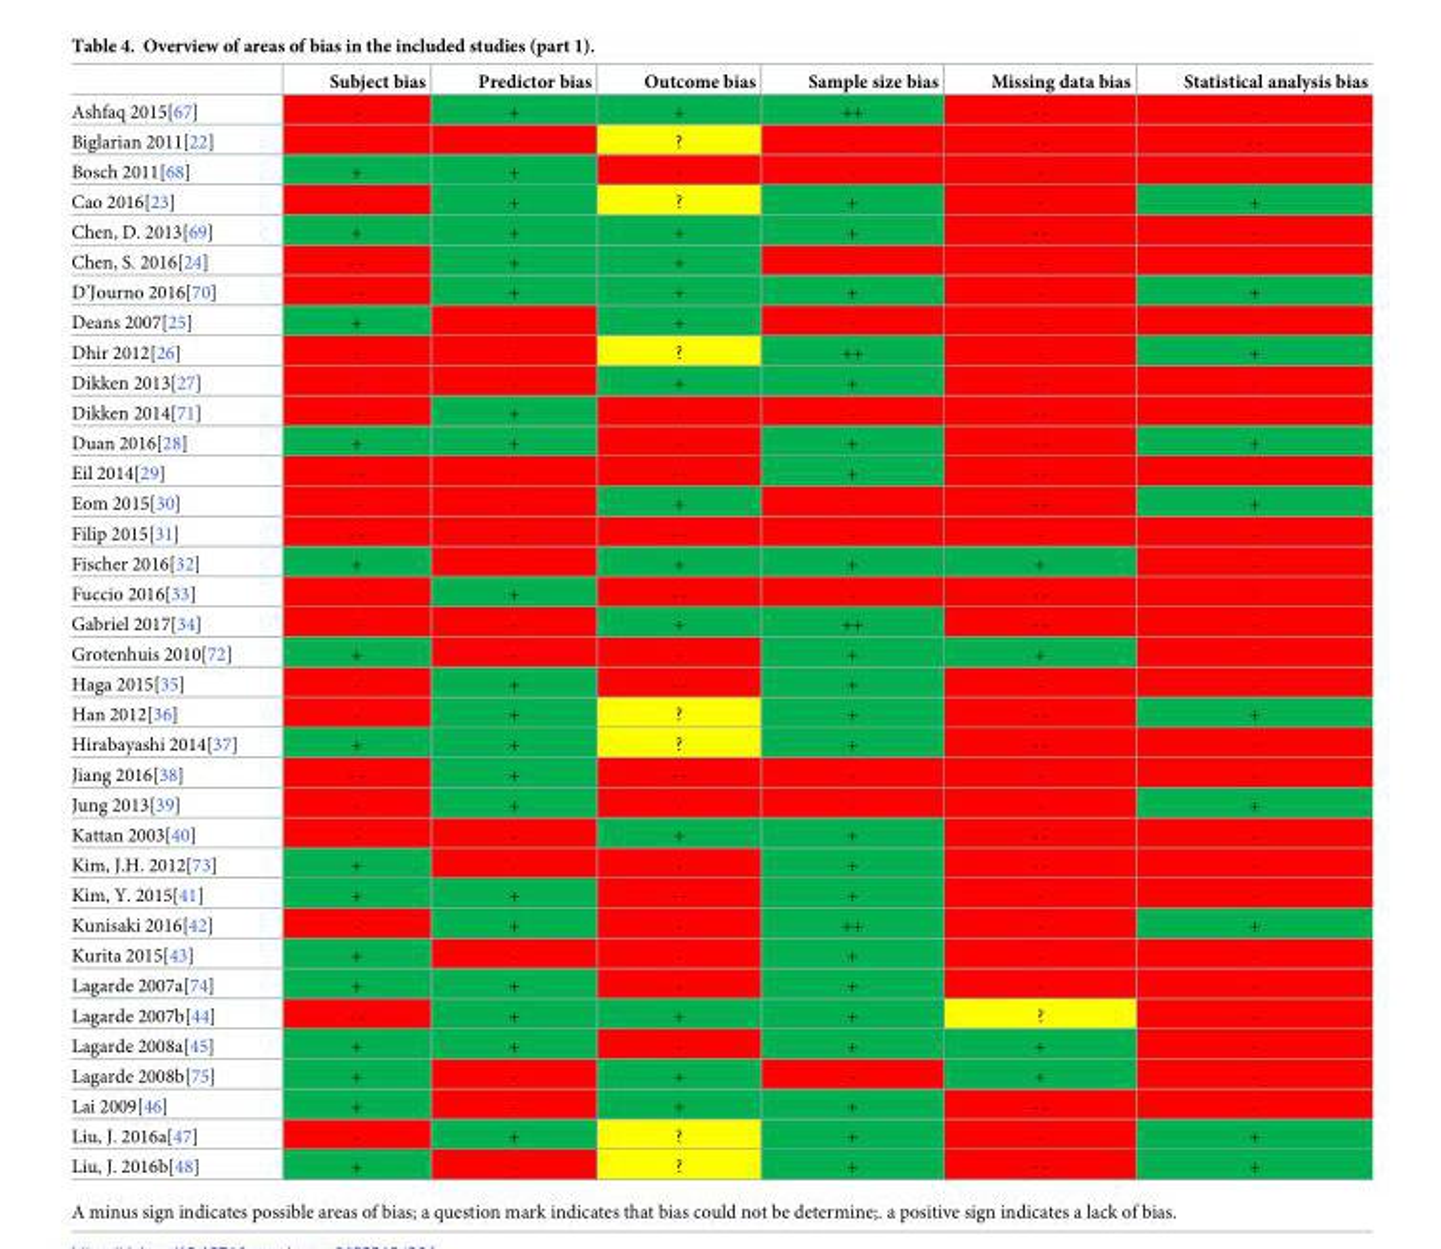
<table><thead><tr><td></td><td>Subject bias</td><td>Predictor bias</td><td>Outcome bias</td><td>Sample size bias</td><td>Missing data bias</td><td>Statistical analysis bias</td></tr></thead><tbody><tr><td>Ashfaq 2015[67]</td><td>-</td><td>+</td><td>+</td><td>++</td><td>--</td><td>-</td></tr><tr><td>Biglarian 2011[22]</td><td>-</td><td>-</td><td>?</td><td>-</td><td>--</td><td>--</td></tr><tr><td>Bosch 2011[68]</td><td>+</td><td>+</td><td>-</td><td>-</td><td>-</td><td>-</td></tr><tr><td>Cao 2016[23]</td><td>-</td><td>+</td><td>?</td><td>+</td><td>-</td><td>+</td></tr><tr><td>Chen, D. 2013[69]</td><td>+</td><td>+</td><td>+</td><td>+</td><td>--</td><td>-</td></tr><tr><td>Chen, S. 2016[24]</td><td>--</td><td>+</td><td>+</td><td>-</td><td>-</td><td>-</td></tr><tr><td>D’Journo 2016[70]</td><td>--</td><td>+</td><td>+</td><td>+</td><td>-</td><td>+</td></tr><tr><td>Deans 2007[25]</td><td>+</td><td>-</td><td>+</td><td>-</td><td>-</td><td>-</td></tr><tr><td>Dhir 2012[26]</td><td>-</td><td>-</td><td>?</td><td>++</td><td>-</td><td>+</td></tr><tr><td>Dikken 2013[27]</td><td>-</td><td>-</td><td>+</td><td>+</td><td>--</td><td>-</td></tr><tr><td>Dikken 2014[71]</td><td>-</td><td>+</td><td>-</td><td>-</td><td>--</td><td>-</td></tr><tr><td>Duan 2016[28]</td><td>+</td><td>+</td><td>-</td><td>+</td><td>--</td><td>+</td></tr><tr><td>Eil 2014[29]</td><td>--</td><td>-</td><td>--</td><td>+</td><td>--</td><td>-</td></tr><tr><td>Eom 2015[30]</td><td>-</td><td>-</td><td>+</td><td>-</td><td>--</td><td>+</td></tr><tr><td>Filip 2015[31]</td><td>--</td><td>-</td><td>--</td><td>-</td><td>-</td><td>-</td></tr><tr><td>Fischer 2016[32]</td><td>+</td><td>-</td><td>+</td><td>+</td><td>+</td><td>-</td></tr><tr><td>Fuccio 2016[33]</td><td>-</td><td>+</td><td>--</td><td>-</td><td>--</td><td>-</td></tr><tr><td>Gabriel 2017[34]</td><td>-</td><td>-</td><td>+</td><td>++</td><td>--</td><td>-</td></tr><tr><td>Grotenhuis 2010[72]</td><td>+</td><td>-</td><td>-</td><td>+</td><td>+</td><td>-</td></tr><tr><td>Haga 2015[35]</td><td>-</td><td>+</td><td>--</td><td>+</td><td>-</td><td>-</td></tr><tr><td>Han 2012[36]</td><td>-</td><td>+</td><td>?</td><td>+</td><td>--</td><td>+</td></tr><tr><td>Hirabayashi 2014[37]</td><td>+</td><td>+</td><td>?</td><td>+</td><td>--</td><td>-</td></tr><tr><td>Jiang 2016[38]</td><td>--</td><td>+</td><td>--</td><td>-</td><td>-</td><td>-</td></tr><tr><td>Jung 2013[39]</td><td>-</td><td>+</td><td>-</td><td>-</td><td>-</td><td>+</td></tr><tr><td>Kattan 2003[40]</td><td>-</td><td>-</td><td>+</td><td>+</td><td>--</td><td>-</td></tr><tr><td>Kim, J.H. 2012[73]</td><td>+</td><td>-</td><td>-</td><td>+</td><td>--</td><td>-</td></tr><tr><td>Kim, Y. 2015[41]</td><td>+</td><td>+</td><td>--</td><td>+</td><td>-</td><td>-</td></tr><tr><td>Kunisaki 2016[42]</td><td>-</td><td>+</td><td>-</td><td>++</td><td>-</td><td>+</td></tr><tr><td>Kurita 2015[43]</td><td>+</td><td>-</td><td>-</td><td>+</td><td>-</td><td>-</td></tr><tr><td>Lagarde 2007a[74]</td><td>+</td><td>+</td><td>-</td><td>+</td><td>-</td><td>-</td></tr><tr><td>Lagarde 2007b[44]</td><td>--</td><td>+</td><td>+</td><td>+</td><td>?</td><td>-</td></tr><tr><td>Lagarde 2008a[45]</td><td>+</td><td>+</td><td>-</td><td>+</td><td>+</td><td>-</td></tr><tr><td>Lagarde 2008b[75]</td><td>+</td><td>-</td><td>+</td><td>-</td><td>+</td><td>-</td></tr><tr><td>Lai 2009[46]</td><td>+</td><td>-</td><td>+</td><td>+</td><td>--</td><td>-</td></tr><tr><td>Liu, J. 2016a[47]</td><td>-</td><td>+</td><td>?</td><td>+</td><td>-</td><td>+</td></tr><tr><td>Liu, J. 2016b[48]</td><td>+</td><td>-</td><td>?</td><td>+</td><td>--</td><td>+</td></tr></tbody></table>